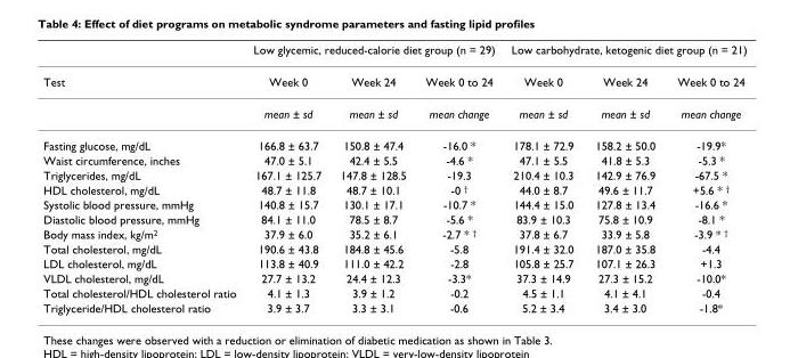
<table><thead><tr><td rowspan="2">Test</td><td colspan="3">Low glycemic, reduced-calorie diet group (n = 29)</td><td colspan="3">Low carbohydrate, ketogenic diet group (n = 21)</td></tr><tr><td>Week 0</td><td>Week 24</td><td>Week 0 to 24</td><td>Week 0</td><td>Week 24</td><td>Week 0 to 24</td></tr></thead><tbody><tr><td></td><td>mean ± sd</td><td>mean ± sd</td><td>mean change</td><td>mean ± sd</td><td>mean ± sd</td><td>mean change</td></tr><tr><td>Fasting glucose, mg/dL</td><td>166.8 ± 63.7</td><td>150.8 ± 47.4</td><td>-16.0 *</td><td>178.1 ± 72.9</td><td>158.2 ± 50.0</td><td>-19.9*</td></tr><tr><td>Waist circumference, inches</td><td>47.0 ± 5.1</td><td>42.4 ± 5.5</td><td>-4.6 *</td><td>47.1 ± 5.5</td><td>41.8 ± 5.3</td><td>-5.3 *</td></tr><tr><td>Triglycerides, mg/dL</td><td>167.1 ± 125.7</td><td>147.8 ± 128.5</td><td>-19.3</td><td>210.4 ± 10.3</td><td>142.9 ± 76.9</td><td>-67.5 *</td></tr><tr><td>HDL cholesterol, mg/dL</td><td>48.7 ± 11.8</td><td>48.7 ± 10.1</td><td>-0 <sup>†</sup></td><td>44.0 ± 8.7</td><td>49.6 ± 11.7</td><td>+5.6 * <sup>†</sup></td></tr><tr><td>Systolic blood pressure, mmHg</td><td>140.8 ± 15.7</td><td>130.1 ± 17.1</td><td>-10.7 *</td><td>144.4 ± 15.0</td><td>127.8 ± 13.4</td><td>-16.6 *</td></tr><tr><td>Diastolic blood pressure, mmHg</td><td>84.1 ± 11.0</td><td>78.5 ± 8.7</td><td>-5.6 *</td><td>83.9 ± 10.3</td><td>75.8 ± 10.9</td><td>-8.1 *</td></tr><tr><td>Body mass index, kg/m<sup>2</sup></td><td>37.9 ± 6.0</td><td>35.2 ± 6.1</td><td>-2.7 * <sup>†</sup></td><td>37.8 ± 6.7</td><td>33.9 ± 5.8</td><td>-3.9 * <sup>†</sup></td></tr><tr><td>Total cholesterol, mg/dL</td><td>190.6 ± 43.8</td><td>184.8 ± 45.6</td><td>-5.8</td><td>191.4 ± 32.0</td><td>187.0 ± 35.8</td><td>-4.4</td></tr><tr><td>LDL cholesterol, mg/dL</td><td>113.8 ± 40.9</td><td>111.0 ± 42.2</td><td>-2.8</td><td>105.8 ± 25.7</td><td>107.1 ± 26.3</td><td>+1.3</td></tr><tr><td>VLDL cholesterol, mg/dL</td><td>27.7 ± 13.2</td><td>24.4 ± 12.3</td><td>-3.3*</td><td>37.3 ± 14.9</td><td>27.3 ± 15.2</td><td>-10.0*</td></tr><tr><td>Total cholesterol/HDL cholesterol ratio</td><td>4.1 ± 1.3</td><td>3.9 ± 1.2</td><td>-0.2</td><td>4.5 ± 1.1</td><td>4.1 ± 4.1</td><td>-0.4</td></tr><tr><td>Triglyceride/HDL cholesterol ratio</td><td>3.9 ± 3.7</td><td>3.3 ± 3.1</td><td>-0.6</td><td>5.2 ± 3.4</td><td>3.4 ± 3.0</td><td>-1.8*</td></tr></tbody></table>